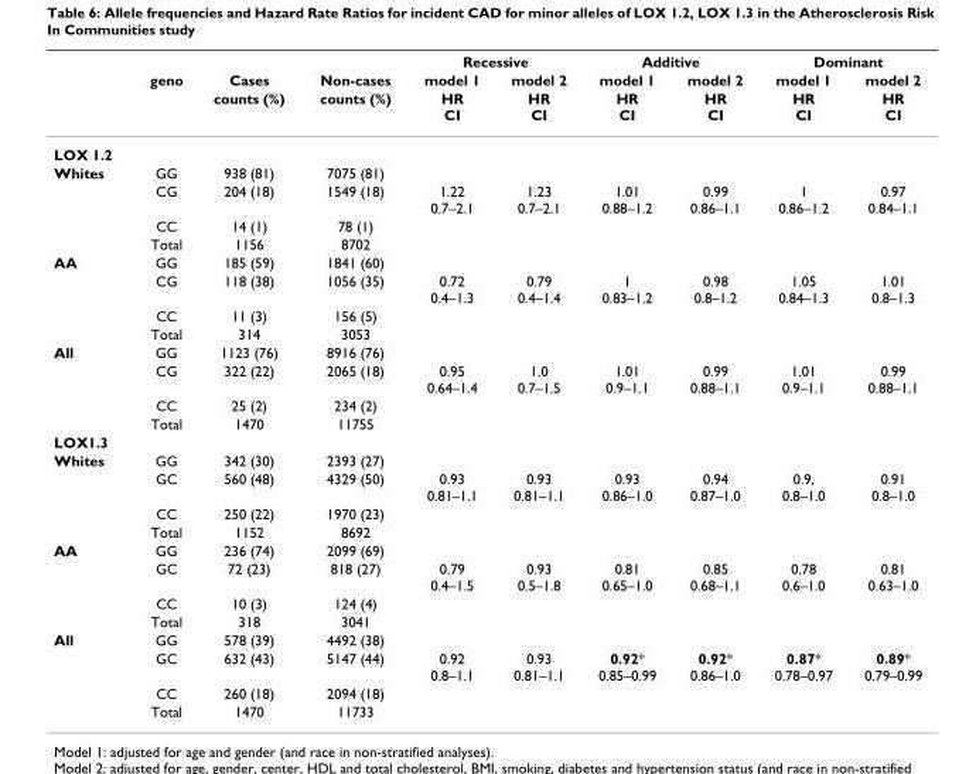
<table><thead><tr><td rowspan="3"></td><td rowspan="3">geno</td><td rowspan="3">Cases counts (%)</td><td rowspan="3">Non-cases counts (%)</td><td colspan="2">Recessive</td><td colspan="2">Additive</td><td colspan="2">Dominant</td></tr><tr><td rowspan="2">model 1 HR CI</td><td rowspan="2">model 2 HR CI</td><td rowspan="2">model 1 HR CI</td><td rowspan="2">model 2 HR CI</td><td rowspan="2">model 1 HR CI</td><td rowspan="2">model 2 HR CI</td></tr><tr></tr></thead><tbody><tr><td colspan="10">LOX 1.2</td></tr><tr><td rowspan="4">Whites</td><td>GG</td><td>938 (81)</td><td>7075 (81)</td><td></td><td></td><td></td><td></td><td></td><td></td></tr><tr><td>CG</td><td>204 (18)</td><td>1549 (18)</td><td>1.22 0.7–2.1</td><td>1.23 0.7–2.1</td><td>1.01 0.88–1.2</td><td>0.99 0.86–1.1</td><td>1 0.86–1.2</td><td>0.97 0.84–1.1</td></tr><tr><td>CC</td><td>14 (1)</td><td>78 (1)</td><td></td><td></td><td></td><td></td><td></td><td></td></tr><tr><td>Total</td><td>1156</td><td>8702</td><td></td><td></td><td></td><td></td><td></td><td></td></tr><tr><td rowspan="4">AA</td><td>GG</td><td>185 (59)</td><td>1841 (60)</td><td></td><td></td><td></td><td></td><td></td><td></td></tr><tr><td>CG</td><td>118 (38)</td><td>1056 (35)</td><td>0.72 0.4–1.3</td><td>0.79 0.4–1.4</td><td>1 0.83–1.2</td><td>0.98 0.8–1.2</td><td>1.05 0.84–1.3</td><td>1.01 0.8–1.3</td></tr><tr><td>CC</td><td>11 (3)</td><td>156 (5)</td><td></td><td></td><td></td><td></td><td></td><td></td></tr><tr><td>Total</td><td>314</td><td>3053</td><td></td><td></td><td></td><td></td><td></td><td></td></tr><tr><td rowspan="4">All</td><td>GG</td><td>1123 (76)</td><td>8916 (76)</td><td></td><td></td><td></td><td></td><td></td><td></td></tr><tr><td>CG</td><td>322 (22)</td><td>2065 (18)</td><td>0.95 0.64–1.4</td><td>1.0 0.7–1.5</td><td>1.01 0.9–1.1</td><td>0.99 0.88–1.1</td><td>1.01 0.9–1.1</td><td>0.99 0.88–1.1</td></tr><tr><td>CC</td><td>25 (2)</td><td>234 (2)</td><td></td><td></td><td></td><td></td><td></td><td></td></tr><tr><td>Total</td><td>1470</td><td>11755</td><td></td><td></td><td></td><td></td><td></td><td></td></tr><tr><td colspan="10">LOX1.3</td></tr><tr><td rowspan="4">Whites</td><td>GG</td><td>342 (30)</td><td>2393 (27)</td><td></td><td></td><td></td><td></td><td></td><td></td></tr><tr><td>GC</td><td>560 (48)</td><td>4329 (50)</td><td>0.93 0.81–1.1</td><td>0.93 0.81–1.1</td><td>0.93 0.86–1.0</td><td>0.94 0.87–1.0</td><td>0.9, 0.8–1.0</td><td>0.91 0.8–1.0</td></tr><tr><td>CC</td><td>250 (22)</td><td>1970 (23)</td><td></td><td></td><td></td><td></td><td></td><td></td></tr><tr><td>Total</td><td>1152</td><td>8692</td><td></td><td></td><td></td><td></td><td></td><td></td></tr><tr><td rowspan="4">AA</td><td>GG</td><td>236 (74)</td><td>2099 (69)</td><td></td><td></td><td></td><td></td><td></td><td></td></tr><tr><td>GC</td><td>72 (23)</td><td>818 (27)</td><td>0.79 0.4–1.5</td><td>0.93 0.5–1.8</td><td>0.81 0.65–1.0</td><td>0.85 0.68–1.1</td><td>0.78 0.6–1.0</td><td>0.81 0.63–1.0</td></tr><tr><td>CC</td><td>10 (3)</td><td>124 (4)</td><td></td><td></td><td></td><td></td><td></td><td></td></tr><tr><td>Total</td><td>318</td><td>3041</td><td></td><td></td><td></td><td></td><td></td><td></td></tr><tr><td rowspan="4">All</td><td>GG</td><td>578 (39)</td><td>4492 (38)</td><td></td><td></td><td></td><td></td><td></td><td></td></tr><tr><td>GC</td><td>632 (43)</td><td>5147 (44)</td><td>0.92 0.8–1.1</td><td>0.93 0.81–1.1</td><td>0.92* 0.85–0.99</td><td>0.92* 0.86–1.0</td><td>0.87* 0.78–0.97</td><td>0.89* 0.79–0.99</td></tr><tr><td>CC</td><td>260 (18)</td><td>2094 (18)</td><td></td><td></td><td></td><td></td><td></td><td></td></tr><tr><td>Total</td><td>1470</td><td>11733</td><td></td><td></td><td></td><td></td><td></td><td></td></tr></tbody></table>